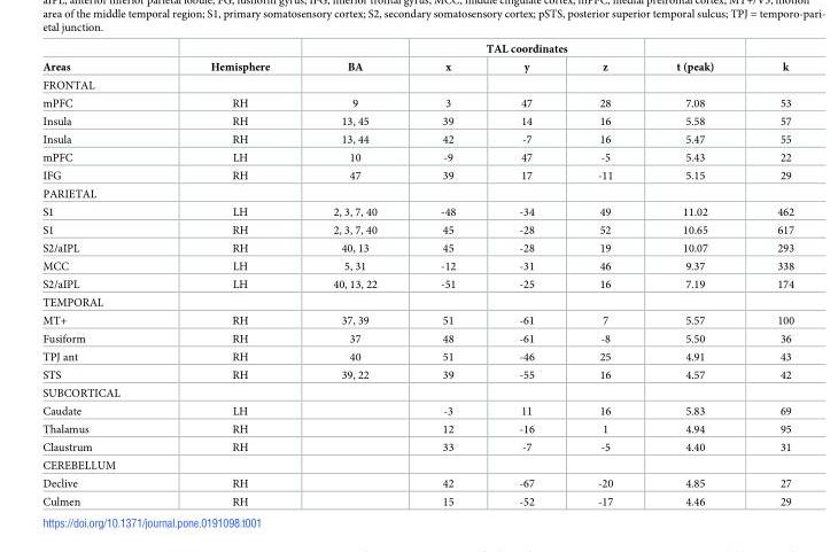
<table><thead><tr><td rowspan="2">Areas</td><td rowspan="2">Hemisphere</td><td rowspan="2">BA</td><td colspan="3">TAL coordinates</td><td rowspan="2">t (peak)</td><td rowspan="2">k</td></tr><tr><td>x</td><td>y</td><td>z</td></tr></thead><tbody><tr><td colspan="8">FRONTAL</td></tr><tr><td>mPFC</td><td>RH</td><td>9</td><td>3</td><td>47</td><td>28</td><td>7.08</td><td>53</td></tr><tr><td>Insula</td><td>RH</td><td>13, 45</td><td>39</td><td>14</td><td>16</td><td>5.58</td><td>57</td></tr><tr><td>Insula</td><td>RH</td><td>13, 44</td><td>42</td><td>-7</td><td>16</td><td>5.47</td><td>55</td></tr><tr><td>mPFC</td><td>LH</td><td>10</td><td>-9</td><td>47</td><td>-5</td><td>5.43</td><td>22</td></tr><tr><td>IFG</td><td>RH</td><td>47</td><td>39</td><td>17</td><td>-11</td><td>5.15</td><td>29</td></tr><tr><td colspan="8">PARIETAL</td></tr><tr><td>S1</td><td>LH</td><td>2, 3, 7, 40</td><td>-48</td><td>-34</td><td>49</td><td>11.02</td><td>462</td></tr><tr><td>S1</td><td>RH</td><td>2, 3, 7, 40</td><td>45</td><td>-28</td><td>52</td><td>10.65</td><td>617</td></tr><tr><td>S2/aIPL</td><td>RH</td><td>40, 13</td><td>45</td><td>-28</td><td>19</td><td>10.07</td><td>293</td></tr><tr><td>MCC</td><td>LH</td><td>5, 31</td><td>-12</td><td>-31</td><td>46</td><td>9.37</td><td>338</td></tr><tr><td>S2/aIPL</td><td>LH</td><td>40, 13, 22</td><td>-51</td><td>-25</td><td>16</td><td>7.19</td><td>174</td></tr><tr><td colspan="8">TEMPORAL</td></tr><tr><td>MT+</td><td>RH</td><td>37, 39</td><td>51</td><td>-61</td><td>7</td><td>5.57</td><td>100</td></tr><tr><td>Fusiform</td><td>RH</td><td>37</td><td>48</td><td>-61</td><td>-8</td><td>5.50</td><td>36</td></tr><tr><td>TPJ ant</td><td>RH</td><td>40</td><td>51</td><td>-46</td><td>25</td><td>4.91</td><td>43</td></tr><tr><td>STS</td><td>RH</td><td>39, 22</td><td>39</td><td>-55</td><td>16</td><td>4.57</td><td>42</td></tr><tr><td colspan="8">SUBCORTICAL</td></tr><tr><td>Caudate</td><td>LH</td><td></td><td>-3</td><td>11</td><td>16</td><td>5.83</td><td>69</td></tr><tr><td>Thalamus</td><td>RH</td><td></td><td>12</td><td>-16</td><td>1</td><td>4.94</td><td>95</td></tr><tr><td>Claustrum</td><td>RH</td><td></td><td>33</td><td>-7</td><td>-5</td><td>4.40</td><td>31</td></tr><tr><td colspan="8">CEREBELLUM</td></tr><tr><td>Declive</td><td>RH</td><td></td><td>42</td><td>-67</td><td>-20</td><td>4.85</td><td>27</td></tr><tr><td>Culmen</td><td>RH</td><td></td><td>15</td><td>-52</td><td>-17</td><td>4.46</td><td>29</td></tr></tbody></table>